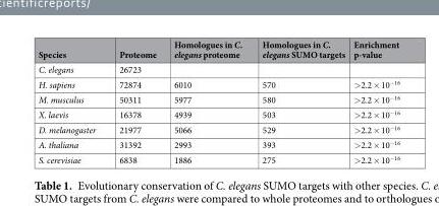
<table><thead><tr><td>Species</td><td>Proteome</td><td>Homologues in C. elegans proteome</td><td>Homologues in C. elegans SUMO targets</td><td>Enrichment p-value</td></tr></thead><tbody><tr><td>C. elegans</td><td>26723</td><td></td><td></td><td></td></tr><tr><td>H. sapiens</td><td>72874</td><td>6010</td><td>570</td><td>&gt;2.2 × 10<sup>−16</sup></td></tr><tr><td>M. musculus</td><td>50311</td><td>5977</td><td>580</td><td>&gt;2.2 × 10<sup>−16</sup></td></tr><tr><td>X. laevis</td><td>16378</td><td>4939</td><td>503</td><td>&gt;2.2 × 10<sup>−16</sup></td></tr><tr><td>D. melanogaster</td><td>21977</td><td>5066</td><td>529</td><td>&gt;2.2 × 10<sup>−16</sup></td></tr><tr><td>A. thaliana</td><td>31392</td><td>2993</td><td>393</td><td>&gt;2.2 × 10<sup>−16</sup></td></tr><tr><td>S. cerevisiae</td><td>6838</td><td>1886</td><td>275</td><td>&gt;2.2 × 10<sup>−16</sup></td></tr></tbody></table>